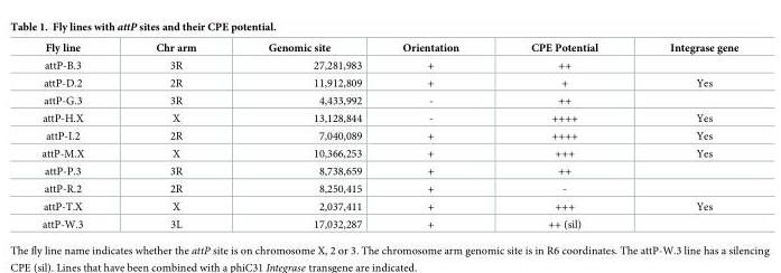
<table><thead><tr><td>Fly line</td><td>Chr arm</td><td>Genomic site</td><td>Orientation</td><td>CPE Potential</td><td>Integrase gene</td></tr></thead><tbody><tr><td>attP-B.3</td><td>3R</td><td>27,281,983</td><td>+</td><td>++</td><td></td></tr><tr><td>attP-D.2</td><td>2R</td><td>11,912,809</td><td>+</td><td>+</td><td>Yes</td></tr><tr><td>attP-G.3</td><td>3R</td><td>4,433,992</td><td>-</td><td>++</td><td></td></tr><tr><td>attP-H.X</td><td>X</td><td>13,128,844</td><td>-</td><td>++++</td><td>Yes</td></tr><tr><td>attP-I.2</td><td>2R</td><td>7,040,089</td><td>+</td><td>++++</td><td>Yes</td></tr><tr><td>attP-M.X</td><td>X</td><td>10,366,253</td><td>+</td><td>+++</td><td>Yes</td></tr><tr><td>attP-P.3</td><td>3R</td><td>8,738,659</td><td>+</td><td>++</td><td></td></tr><tr><td>attP-R.2</td><td>2R</td><td>8,250,415</td><td>+</td><td>-</td><td></td></tr><tr><td>attP-T.X</td><td>X</td><td>2,037,411</td><td>+</td><td>+++</td><td>Yes</td></tr><tr><td>attP-W.3</td><td>3L</td><td>17,032,287</td><td>+</td><td>++ (sil)</td><td></td></tr></tbody></table>